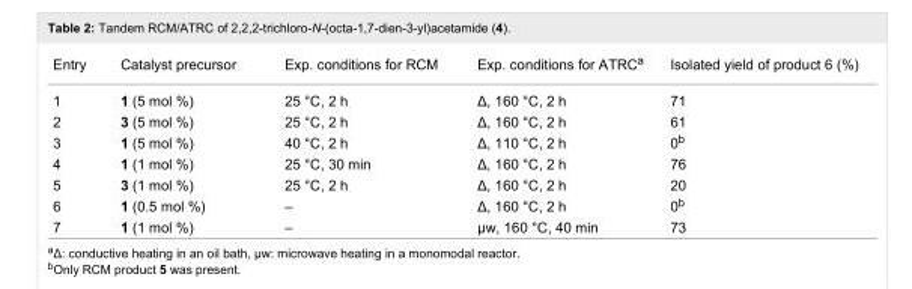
<table><tbody><tr><td>Entry</td><td>Catalyst precursor</td><td>Exp. conditions for RCM</td><td>Exp. conditions for ATRC<sup>a</sup></td><td>Isolated yield of product 6 (%)</td></tr><tr><td>1</td><td>1 (5 mol %)</td><td>25 °C, 2 h</td><td>Δ, 160 °C, 2 h</td><td>71</td></tr><tr><td>2</td><td>3 (5 mol %)</td><td>25 °C, 2 h</td><td>Δ, 160 °C, 2 h</td><td>61</td></tr><tr><td>3</td><td>1 (5 mol %)</td><td>40 °C, 2 h</td><td>Δ, 110 °C, 2 h</td><td>0<sup>b</sup></td></tr><tr><td>4</td><td>1 (1 mol %)</td><td>25 °C, 30 min</td><td>Δ, 160 °C, 2 h</td><td>76</td></tr><tr><td>5</td><td>3 (1 mol %)</td><td>25 °C, 2 h</td><td>Δ, 160 °C, 2 h</td><td>20</td></tr><tr><td>6</td><td>1 (0.5 mol %)</td><td>–</td><td>Δ, 160 °C, 2 h</td><td>0<sup>b</sup></td></tr><tr><td>7</td><td>1 (1 mol %)</td><td>–</td><td>μw, 160 °C, 40 min</td><td>73</td></tr></tbody></table>